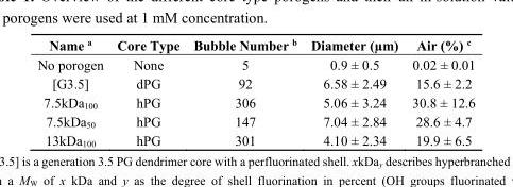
<table><thead><tr><td>Name <sup>a</sup></td><td>Core Type</td><td>Bubble Number <sup>b</sup></td><td>Diameter (µm)</td><td>Air (%) <sup>c</sup></td></tr></thead><tbody><tr><td>No porogen</td><td>None</td><td>5</td><td>0.9 ± 0.5</td><td>0.02 ± 0.01</td></tr><tr><td>[G3.5]</td><td>dPG</td><td>92</td><td>6.58 ± 2.49</td><td>15.6 ± 2.2</td></tr><tr><td>7.5kDa<sub>100</sub></td><td>hPG</td><td>306</td><td>5.06 ± 3.24</td><td>30.8 ± 12.6</td></tr><tr><td>7.5kDa<sub>50</sub></td><td>hPG</td><td>147</td><td>7.04 ± 2.84</td><td>28.6 ± 4.7</td></tr><tr><td>13kDa<sub>100</sub></td><td>hPG</td><td>301</td><td>4.10 ± 2.34</td><td>19.9 ± 6.5</td></tr></tbody></table>